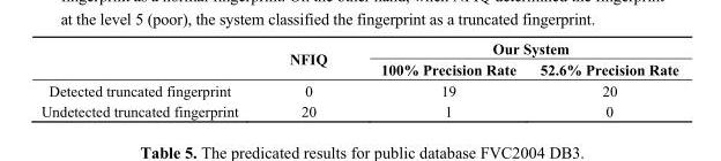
<table><thead><tr><td rowspan="2"></td><td rowspan="2">NFIQ</td><td colspan="2">Our System</td></tr><tr><td>100% Precision Rate</td><td>52.6% Precision Rate</td></tr></thead><tbody><tr><td>Detected truncated fingerprint</td><td>0</td><td>19</td><td>20</td></tr><tr><td>Undetected truncated fingerprint</td><td>20</td><td>1</td><td>0</td></tr></tbody></table>